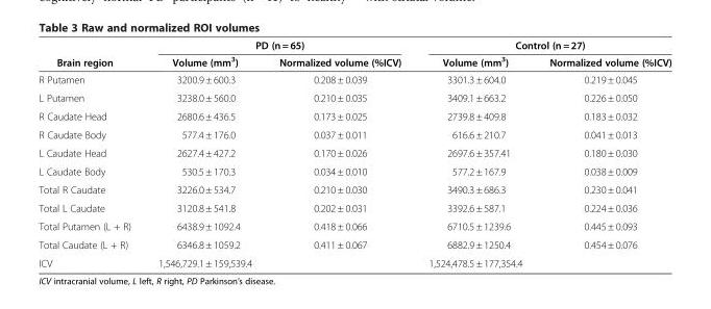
<table><thead><tr><td rowspan="2">Brain region</td><td colspan="2">PD (n = 65)</td><td colspan="2">Control (n = 27)</td></tr><tr><td>Volume (mm<sup>3</sup>)</td><td>Normalized volume (%ICV)</td><td>Volume (mm<sup>3</sup>)</td><td>Normalized volume (%ICV)</td></tr></thead><tbody><tr><td>R Putamen</td><td>3200.9 ± 600.3</td><td>0.208 ± 0.039</td><td>3301.3 ± 604.0</td><td>0.219 ± 0.045</td></tr><tr><td>L Putamen</td><td>3238.0 ± 560.0</td><td>0.210 ± 0.035</td><td>3409.1 ± 663.2</td><td>0.226 ± 0.050</td></tr><tr><td>R Caudate Head</td><td>2680.6 ± 436.5</td><td>0.173 ± 0.025</td><td>2739.8 ± 409.8</td><td>0.183 ± 0.032</td></tr><tr><td>R Caudate Body</td><td>577.4 ± 176.0</td><td>0.037 ± 0.011</td><td>616.6 ± 210.7</td><td>0.041 ± 0.013</td></tr><tr><td>L Caudate Head</td><td>2627.4 ± 427.2</td><td>0.170 ± 0.026</td><td>2697.6 ± 357.41</td><td>0.180 ± 0.030</td></tr><tr><td>L Caudate Body</td><td>530.5 ± 170.3</td><td>0.034 ± 0.010</td><td>577.2 ± 167.9</td><td>0.038 ± 0.009</td></tr><tr><td>Total R Caudate</td><td>3226.0 ± 534.7</td><td>0.210 ± 0.030</td><td>3490.3 ± 686.3</td><td>0.230 ± 0.041</td></tr><tr><td>Total L Caudate</td><td>3120.8 ± 541.8</td><td>0.202 ± 0.031</td><td>3392.6 ± 587.1</td><td>0.224 ± 0.036</td></tr><tr><td>Total Putamen (L + R)</td><td>6438.9 ± 1092.4</td><td>0.418 ± 0.066</td><td>6710.5 ± 1239.6</td><td>0.445 ± 0.093</td></tr><tr><td>Total Caudate (L + R)</td><td>6346.8 ± 1059.2</td><td>0.411 ± 0.067</td><td>6882.9 ± 1250.4</td><td>0.454 ± 0.076</td></tr><tr><td>ICV</td><td>1,546,729.1 ± 159,539.4</td><td></td><td>1,524,478.5 ± 177,354.4</td><td></td></tr></tbody></table>